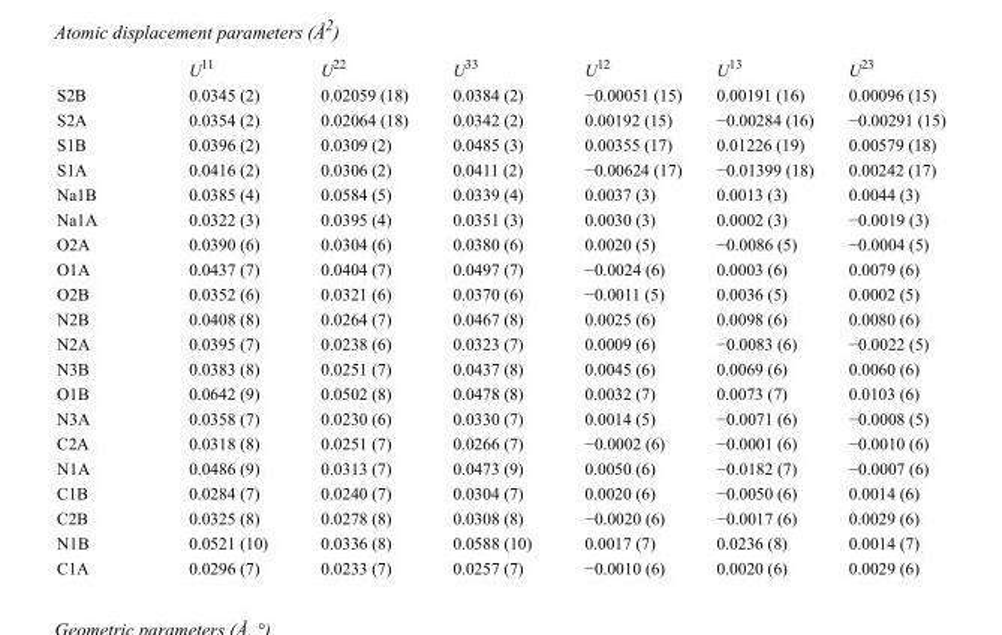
<table><thead><tr><td></td><td>U<sup>11</sup></td><td>U<sup>22</sup></td><td>U<sup>33</sup></td><td>U<sup>12</sup></td><td>U<sup>13</sup></td><td>U<sup>23</sup></td></tr></thead><tbody><tr><td>S2B</td><td>0.0345 (2)</td><td>0.02059 (18)</td><td>0.0384 (2)</td><td>−0.00051 (15)</td><td>0.00191 (16)</td><td>0.00096 (15)</td></tr><tr><td>S2A</td><td>0.0354 (2)</td><td>0.02064 (18)</td><td>0.0342 (2)</td><td>0.00192 (15)</td><td>−0.00284 (16)</td><td>−0.00291 (15)</td></tr><tr><td>S1B</td><td>0.0396 (2)</td><td>0.0309 (2)</td><td>0.0485 (3)</td><td>0.00355 (17)</td><td>0.01226 (19)</td><td>0.00579 (18)</td></tr><tr><td>S1A</td><td>0.0416 (2)</td><td>0.0306 (2)</td><td>0.0411 (2)</td><td>−0.00624 (17)</td><td>−0.01399 (18)</td><td>0.00242 (17)</td></tr><tr><td>Na1B</td><td>0.0385 (4)</td><td>0.0584 (5)</td><td>0.0339 (4)</td><td>0.0037 (3)</td><td>0.0013 (3)</td><td>0.0044 (3)</td></tr><tr><td>Na1A</td><td>0.0322 (3)</td><td>0.0395 (4)</td><td>0.0351 (3)</td><td>0.0030 (3)</td><td>0.0002 (3)</td><td>−0.0019 (3)</td></tr><tr><td>O2A</td><td>0.0390 (6)</td><td>0.0304 (6)</td><td>0.0380 (6)</td><td>0.0020 (5)</td><td>−0.0086 (5)</td><td>−0.0004 (5)</td></tr><tr><td>O1A</td><td>0.0437 (7)</td><td>0.0404 (7)</td><td>0.0497 (7)</td><td>−0.0024 (6)</td><td>0.0003 (6)</td><td>0.0079 (6)</td></tr><tr><td>O2B</td><td>0.0352 (6)</td><td>0.0321 (6)</td><td>0.0370 (6)</td><td>−0.0011 (5)</td><td>0.0036 (5)</td><td>0.0002 (5)</td></tr><tr><td>N2B</td><td>0.0408 (8)</td><td>0.0264 (7)</td><td>0.0467 (8)</td><td>0.0025 (6)</td><td>0.0098 (6)</td><td>0.0080 (6)</td></tr><tr><td>N2A</td><td>0.0395 (7)</td><td>0.0238 (6)</td><td>0.0323 (7)</td><td>0.0009 (6)</td><td>−0.0083 (6)</td><td>−0.0022 (5)</td></tr><tr><td>N3B</td><td>0.0383 (8)</td><td>0.0251 (7)</td><td>0.0437 (8)</td><td>0.0045 (6)</td><td>0.0069 (6)</td><td>0.0060 (6)</td></tr><tr><td>O1B</td><td>0.0642 (9)</td><td>0.0502 (8)</td><td>0.0478 (8)</td><td>0.0032 (7)</td><td>0.0073 (7)</td><td>0.0103 (6)</td></tr><tr><td>N3A</td><td>0.0358 (7)</td><td>0.0230 (6)</td><td>0.0330 (7)</td><td>0.0014 (5)</td><td>−0.0071 (6)</td><td>−0.0008 (5)</td></tr><tr><td>C2A</td><td>0.0318 (8)</td><td>0.0251 (7)</td><td>0.0266 (7)</td><td>−0.0002 (6)</td><td>−0.0001 (6)</td><td>−0.0010 (6)</td></tr><tr><td>N1A</td><td>0.0486 (9)</td><td>0.0313 (7)</td><td>0.0473 (9)</td><td>0.0050 (6)</td><td>−0.0182 (7)</td><td>−0.0007 (6)</td></tr><tr><td>C1B</td><td>0.0284 (7)</td><td>0.0240 (7)</td><td>0.0304 (7)</td><td>0.0020 (6)</td><td>−0.0050 (6)</td><td>0.0014 (6)</td></tr><tr><td>C2B</td><td>0.0325 (8)</td><td>0.0278 (8)</td><td>0.0308 (8)</td><td>−0.0020 (6)</td><td>−0.0017 (6)</td><td>0.0029 (6)</td></tr><tr><td>N1B</td><td>0.0521 (10)</td><td>0.0336 (8)</td><td>0.0588 (10)</td><td>0.0017 (7)</td><td>0.0236 (8)</td><td>0.0014 (7)</td></tr><tr><td>C1A</td><td>0.0296 (7)</td><td>0.0233 (7)</td><td>0.0257 (7)</td><td>−0.0010 (6)</td><td>0.0020 (6)</td><td>0.0029 (6)</td></tr></tbody></table>